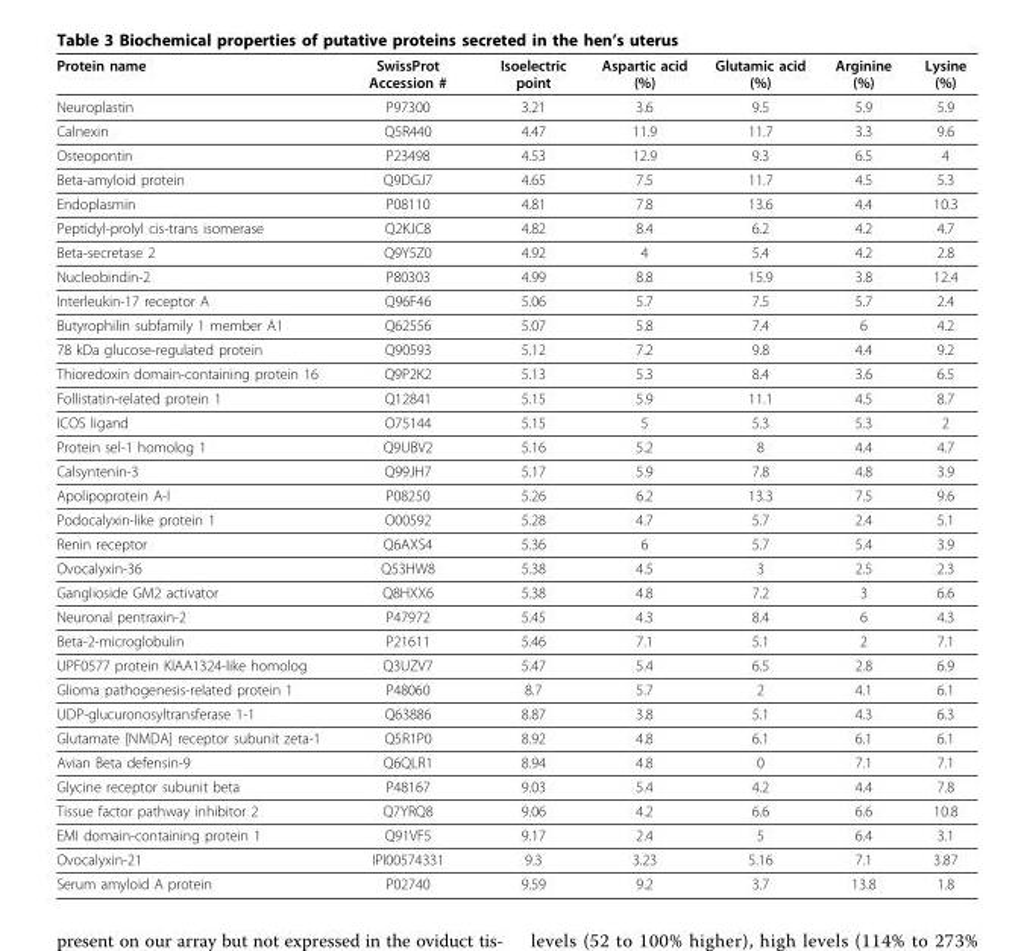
<table><thead><tr><td>Protein name</td><td>SwissProt Accession #</td><td>Isoelectric point</td><td>Aspartic acid (%)</td><td>Glutamic acid (%)</td><td>Arginine (%)</td><td>Lysine (%)</td></tr></thead><tbody><tr><td>Neuroplastin</td><td>P97300</td><td>3.21</td><td>3.6</td><td>9.5</td><td>5.9</td><td>5.9</td></tr><tr><td>Calnexin</td><td>Q5R440</td><td>4.47</td><td>11.9</td><td>11.7</td><td>3.3</td><td>9.6</td></tr><tr><td>Osteopontin</td><td>P23498</td><td>4.53</td><td>12.9</td><td>9.3</td><td>6.5</td><td>4</td></tr><tr><td>Beta-amyloid protein</td><td>Q9DGJ7</td><td>4.65</td><td>7.5</td><td>11.7</td><td>4.5</td><td>5.3</td></tr><tr><td>Endoplasmin</td><td>P08110</td><td>4.81</td><td>7.8</td><td>13.6</td><td>4.4</td><td>10.3</td></tr><tr><td>Peptidyl-prolyl cis-trans isomerase</td><td>Q2KJC8</td><td>4.82</td><td>8.4</td><td>6.2</td><td>4.2</td><td>4.7</td></tr><tr><td>Beta-secretase 2</td><td>Q9Y5Z0</td><td>4.92</td><td>4</td><td>5.4</td><td>4.2</td><td>2.8</td></tr><tr><td>Nucleobindin-2</td><td>P80303</td><td>4.99</td><td>8.8</td><td>15.9</td><td>3.8</td><td>12.4</td></tr><tr><td>Interleukin-17 receptor A</td><td>Q96F46</td><td>5.06</td><td>5.7</td><td>7.5</td><td>5.7</td><td>2.4</td></tr><tr><td>Butyrophilin subfamily 1 member A1</td><td>Q62556</td><td>5.07</td><td>5.8</td><td>7.4</td><td>6</td><td>4.2</td></tr><tr><td>78 kDa glucose-regulated protein</td><td>Q90593</td><td>5.12</td><td>7.2</td><td>9.8</td><td>4.4</td><td>9.2</td></tr><tr><td>Thioredoxin domain-containing protein 16</td><td>Q9P2K2</td><td>5.13</td><td>5.3</td><td>8.4</td><td>3.6</td><td>6.5</td></tr><tr><td>Follistatin-related protein 1</td><td>Q12841</td><td>5.15</td><td>5.9</td><td>11.1</td><td>4.5</td><td>8.7</td></tr><tr><td>ICOS ligand</td><td>O75144</td><td>5.15</td><td>5</td><td>5.3</td><td>5.3</td><td>2</td></tr><tr><td>Protein sel-1 homolog 1</td><td>Q9UBV2</td><td>5.16</td><td>5.2</td><td>8</td><td>4.4</td><td>4.7</td></tr><tr><td>Calsyntenin-3</td><td>Q99JH7</td><td>5.17</td><td>5.9</td><td>7.8</td><td>4.8</td><td>3.9</td></tr><tr><td>Apolipoprotein A-I</td><td>P08250</td><td>5.26</td><td>6.2</td><td>13.3</td><td>7.5</td><td>9.6</td></tr><tr><td>Podocalyxin-like protein 1</td><td>O00592</td><td>5.28</td><td>4.7</td><td>5.7</td><td>2.4</td><td>5.1</td></tr><tr><td>Renin receptor</td><td>Q6AXS4</td><td>5.36</td><td>6</td><td>5.7</td><td>5.4</td><td>3.9</td></tr><tr><td>Ovocalyxin-36</td><td>Q53HW8</td><td>5.38</td><td>4.5</td><td>3</td><td>2.5</td><td>2.3</td></tr><tr><td>Ganglioside GM2 activator</td><td>Q8HXX6</td><td>5.38</td><td>4.8</td><td>7.2</td><td>3</td><td>6.6</td></tr><tr><td>Neuronal pentraxin-2</td><td>P47972</td><td>5.45</td><td>4.3</td><td>8.4</td><td>6</td><td>4.3</td></tr><tr><td>Beta-2-microglobulin</td><td>P21611</td><td>5.46</td><td>7.1</td><td>5.1</td><td>2</td><td>7.1</td></tr><tr><td>UPF0577 protein KIAA1324-like homolog</td><td>Q3UZV7</td><td>5.47</td><td>5.4</td><td>6.5</td><td>2.8</td><td>6.9</td></tr><tr><td>Glioma pathogenesis-related protein 1</td><td>P48060</td><td>8.7</td><td>5.7</td><td>2</td><td>4.1</td><td>6.1</td></tr><tr><td>UDP-glucuronosyltransferase 1-1</td><td>Q63886</td><td>8.87</td><td>3.8</td><td>5.1</td><td>4.3</td><td>6.3</td></tr><tr><td>Glutamate [NMDA] receptor subunit zeta-1</td><td>Q5R1P0</td><td>8.92</td><td>4.8</td><td>6.1</td><td>6.1</td><td>6.1</td></tr><tr><td>Avian Beta defensin-9</td><td>Q6QLR1</td><td>8.94</td><td>4.8</td><td>0</td><td>7.1</td><td>7.1</td></tr><tr><td>Glycine receptor subunit beta</td><td>P48167</td><td>9.03</td><td>5.4</td><td>4.2</td><td>4.4</td><td>7.8</td></tr><tr><td>Tissue factor pathway inhibitor 2</td><td>Q7YRQ8</td><td>9.06</td><td>4.2</td><td>6.6</td><td>6.6</td><td>10.8</td></tr><tr><td>EMI domain-containing protein 1</td><td>Q91VF5</td><td>9.17</td><td>2.4</td><td>5</td><td>6.4</td><td>3.1</td></tr><tr><td>Ovocalyxin-21</td><td>IPI00574331</td><td>9.3</td><td>3.23</td><td>5.16</td><td>7.1</td><td>3.87</td></tr><tr><td>Serum amyloid A protein</td><td>P02740</td><td>9.59</td><td>9.2</td><td>3.7</td><td>13.8</td><td>1.8</td></tr></tbody></table>